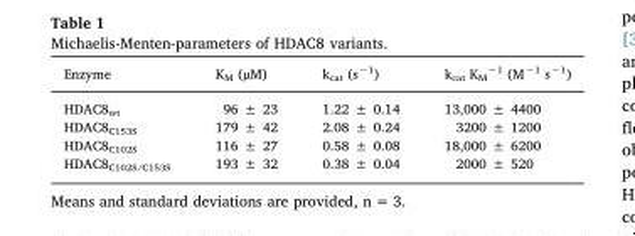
<table><thead><tr><td>Enzyme</td><td>K<sub>M</sub> (µM)</td><td>k<sub>cat</sub> (s<sup>−1</sup>)</td><td>k<sub>cat</sub> K<sub>M</sub> <sup>−1</sup> (M<sup>−1</sup> s<sup>−1</sup>)</td></tr></thead><tbody><tr><td>HDAC8<sub>wt</sub></td><td>96 ± 23</td><td>1.22 ± 0.14</td><td>13,000 ± 4400</td></tr><tr><td>HDAC8<sub>C153S</sub></td><td>179 ± 42</td><td>2.08 ± 0.24</td><td>3200 ± 1200</td></tr><tr><td>HDAC8<sub>C102S</sub></td><td>116 ± 27</td><td>0.58 ± 0.08</td><td>18,000 ± 6200</td></tr><tr><td>HDAC8<sub>C102S/C153S</sub></td><td>193 ± 32</td><td>0.38 ± 0.04</td><td>2000 ± 520</td></tr></tbody></table>